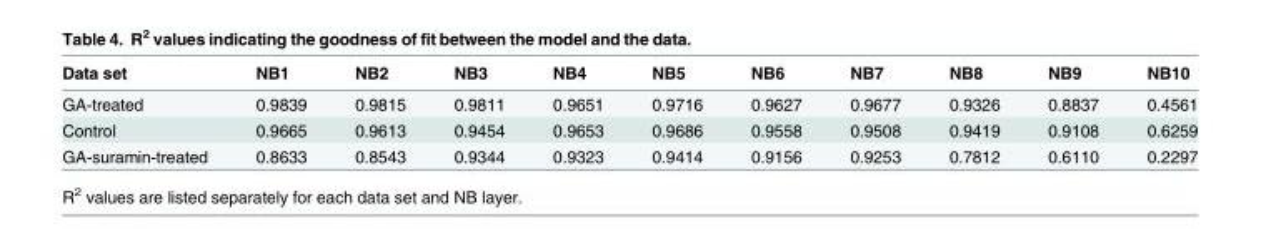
<table><thead><tr><td>Data set</td><td>NB1</td><td>NB2</td><td>NB3</td><td>NB4</td><td>NB5</td><td>NB6</td><td>NB7</td><td>NB8</td><td>NB9</td><td>NB10</td></tr></thead><tbody><tr><td>GA-treated</td><td>0.9839</td><td>0.9815</td><td>0.9811</td><td>0.9651</td><td>0.9716</td><td>0.9627</td><td>0.9677</td><td>0.9326</td><td>0.8837</td><td>0.4561</td></tr><tr><td>Control</td><td>0.9665</td><td>0.9613</td><td>0.9454</td><td>0.9653</td><td>0.9686</td><td>0.9558</td><td>0.9508</td><td>0.9419</td><td>0.9108</td><td>0.6259</td></tr><tr><td>GA-suramin-treated</td><td>0.8633</td><td>0.8543</td><td>0.9344</td><td>0.9323</td><td>0.9414</td><td>0.9156</td><td>0.9253</td><td>0.7812</td><td>0.6110</td><td>0.2297</td></tr></tbody></table>